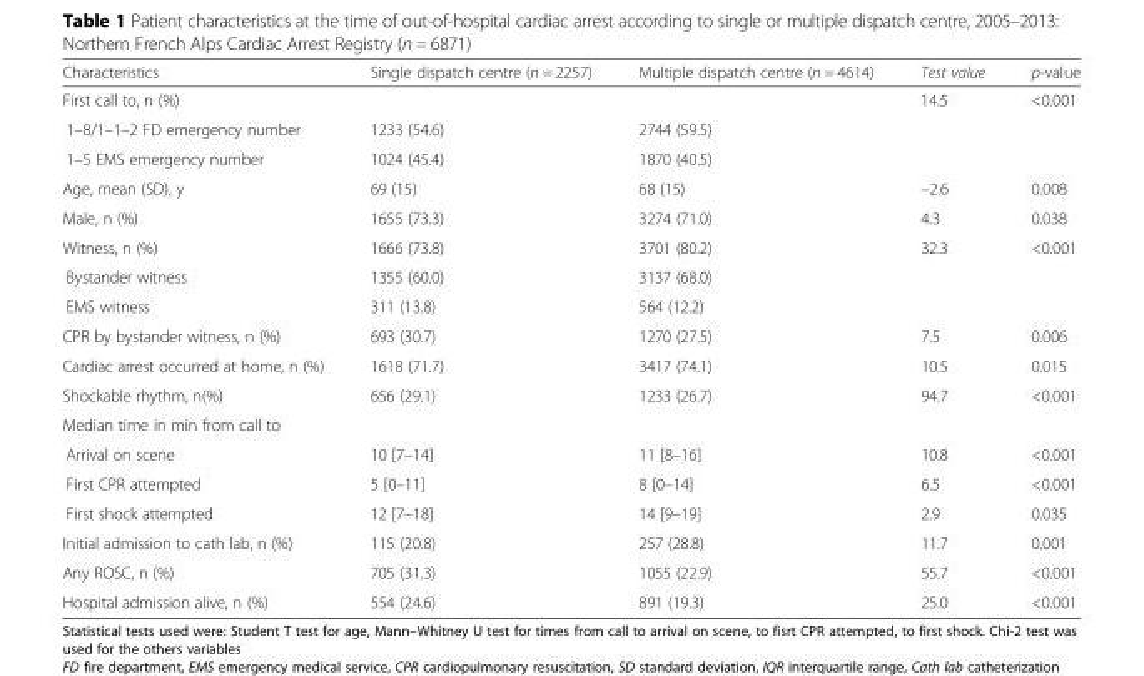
<table><thead><tr><td>Characteristics</td><td>Single dispatch centre (n = 2257)</td><td>Multiple dispatch centre (n = 4614)</td><td>Test value</td><td>p-value</td></tr></thead><tbody><tr><td>First call to, n (%)</td><td></td><td></td><td>14.5</td><td>&lt;0.001</td></tr><tr><td>1–8/1–1–2 FD emergency number</td><td>1233 (54.6)</td><td>2744 (59.5)</td><td></td><td></td></tr><tr><td>1–5 EMS emergency number</td><td>1024 (45.4)</td><td>1870 (40.5)</td><td></td><td></td></tr><tr><td>Age, mean (SD), y</td><td>69 (15)</td><td>68 (15)</td><td>–2.6</td><td>0.008</td></tr><tr><td>Male, n (%)</td><td>1655 (73.3)</td><td>3274 (71.0)</td><td>4.3</td><td>0.038</td></tr><tr><td>Witness, n (%)</td><td>1666 (73.8)</td><td>3701 (80.2)</td><td>32.3</td><td>&lt;0.001</td></tr><tr><td>Bystander witness</td><td>1355 (60.0)</td><td>3137 (68.0)</td><td></td><td></td></tr><tr><td>EMS witness</td><td>311 (13.8)</td><td>564 (12.2)</td><td></td><td></td></tr><tr><td>CPR by bystander witness, n (%)</td><td>693 (30.7)</td><td>1270 (27.5)</td><td>7.5</td><td>0.006</td></tr><tr><td>Cardiac arrest occurred at home, n (%)</td><td>1618 (71.7)</td><td>3417 (74.1)</td><td>10.5</td><td>0.015</td></tr><tr><td>Shockable rhythm, n(%)</td><td>656 (29.1)</td><td>1233 (26.7)</td><td>94.7</td><td>&lt;0.001</td></tr><tr><td colspan="5">Median time in min from call to</td></tr><tr><td>Arrival on scene</td><td>10 [7–14]</td><td>11 [8–16]</td><td>10.8</td><td>&lt;0.001</td></tr><tr><td>First CPR attempted</td><td>5 [0–11]</td><td>8 [0–14]</td><td>6.5</td><td>&lt;0.001</td></tr><tr><td>First shock attempted</td><td>12 [7–18]</td><td>14 [9–19]</td><td>2.9</td><td>0.035</td></tr><tr><td>Initial admission to cath lab, n (%)</td><td>115 (20.8)</td><td>257 (28.8)</td><td>11.7</td><td>0.001</td></tr><tr><td>Any ROSC, n (%)</td><td>705 (31.3)</td><td>1055 (22.9)</td><td>55.7</td><td>&lt;0.001</td></tr><tr><td>Hospital admission alive, n (%)</td><td>554 (24.6)</td><td>891 (19.3)</td><td>25.0</td><td>&lt;0.001</td></tr></tbody></table>